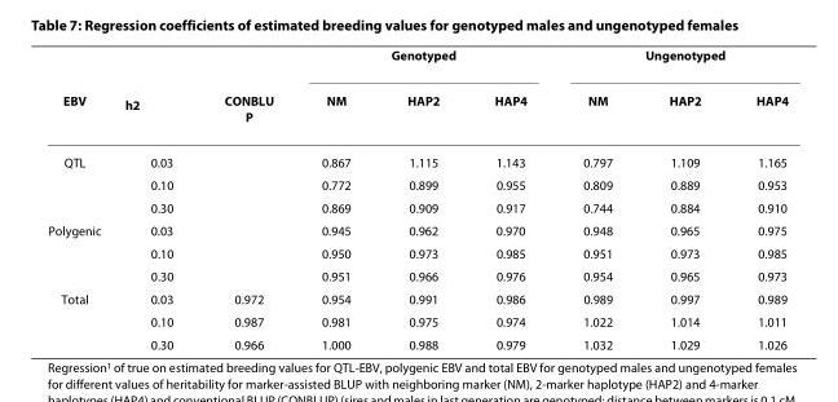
<table><thead><tr><td rowspan="2">EBV</td><td rowspan="2">h<sup>2</sup></td><td rowspan="2">CONBLU P</td><td colspan="3">Genotyped</td><td colspan="3">Ungenotyped</td></tr><tr><td>NM</td><td>HAP2</td><td>HAP4</td><td>NM</td><td>HAP2</td><td>HAP4</td></tr></thead><tbody><tr><td rowspan="3">QTL</td><td>0.03</td><td></td><td>0.867</td><td>1.115</td><td>1.143</td><td>0.797</td><td>1.109</td><td>1.165</td></tr><tr><td>0.10</td><td></td><td>0.772</td><td>0.899</td><td>0.955</td><td>0.809</td><td>0.889</td><td>0.953</td></tr><tr><td>0.30</td><td></td><td>0.869</td><td>0.909</td><td>0.917</td><td>0.744</td><td>0.884</td><td>0.910</td></tr><tr><td rowspan="3">Polygenic</td><td>0.03</td><td></td><td>0.945</td><td>0.962</td><td>0.970</td><td>0.948</td><td>0.965</td><td>0.975</td></tr><tr><td>0.10</td><td></td><td>0.950</td><td>0.973</td><td>0.985</td><td>0.951</td><td>0.973</td><td>0.985</td></tr><tr><td>0.30</td><td></td><td>0.951</td><td>0.966</td><td>0.976</td><td>0.954</td><td>0.965</td><td>0.973</td></tr><tr><td rowspan="3">Total</td><td>0.03</td><td>0.972</td><td>0.954</td><td>0.991</td><td>0.986</td><td>0.989</td><td>0.997</td><td>0.989</td></tr><tr><td>0.10</td><td>0.987</td><td>0.981</td><td>0.975</td><td>0.974</td><td>1.022</td><td>1.014</td><td>1.011</td></tr><tr><td>0.30</td><td>0.966</td><td>1.000</td><td>0.988</td><td>0.979</td><td>1.032</td><td>1.029</td><td>1.026</td></tr></tbody></table>